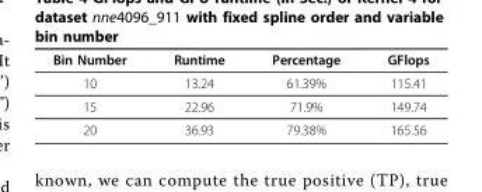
<table><thead><tr><td>Bin Number</td><td>Runtime</td><td>Percentage</td><td>GFlops</td></tr></thead><tbody><tr><td>10</td><td>13.24</td><td>61.39%</td><td>115.41</td></tr><tr><td>15</td><td>22.96</td><td>71.9%</td><td>149.74</td></tr><tr><td>20</td><td>36.93</td><td>79.38%</td><td>165.56</td></tr></tbody></table>